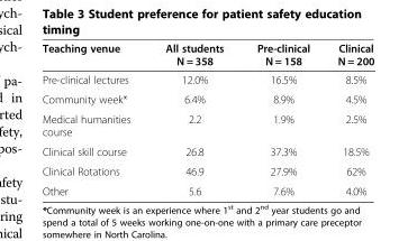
<table><thead><tr><td>Teaching venue</td><td>All students N = 358</td><td>Pre-clinical N = 158</td><td>Clinical N = 200</td></tr></thead><tbody><tr><td>Pre-clinical lectures</td><td>12.0%</td><td>16.5%</td><td>8.5%</td></tr><tr><td>Community week*</td><td>6.4%</td><td>8.9%</td><td>4.5%</td></tr><tr><td>Medical humanities course</td><td>2.2</td><td>1.9%</td><td>2.5%</td></tr><tr><td>Clinical skill course</td><td>26.8</td><td>37.3%</td><td>18.5%</td></tr><tr><td>Clinical Rotations</td><td>46.9</td><td>27.9%</td><td>62%</td></tr><tr><td>Other</td><td>5.6</td><td>7.6%</td><td>4.0%</td></tr></tbody></table>